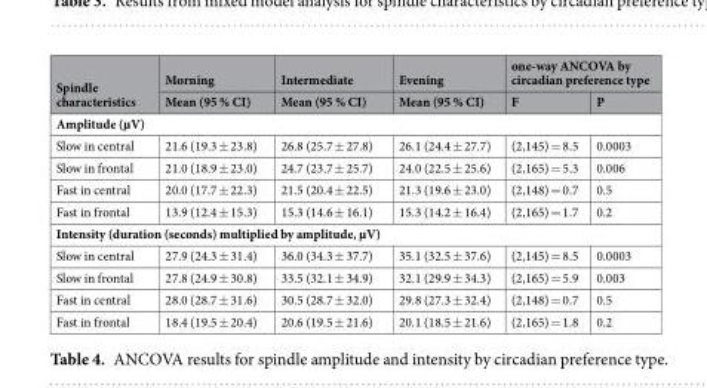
<table><thead><tr><td rowspan="2">Spindle characteristics</td><td rowspan="2">Morning Mean (95 % CI)</td><td rowspan="2">Intermediate Mean (95 % CI)</td><td rowspan="2">Evening Mean (95 % CI)</td><td colspan="2">one-way ANCOVA by circadian preference type</td></tr><tr><td>F</td><td>P</td></tr></thead><tbody><tr><td colspan="6">Amplitude (µV)</td></tr><tr><td>Slow in central</td><td>21.6 (19.3 ± 23.8)</td><td>26.8 (25.7 ± 27.8)</td><td>26.1 (24.4 ± 27.7)</td><td>(2,145) = 8.5</td><td>0.0003</td></tr><tr><td>Slow in frontal</td><td>21.0 (18.9 ± 23.0)</td><td>24.7 (23.7 ± 25.7)</td><td>24.0 (22.5 ± 25.6)</td><td>(2,165) = 5.3</td><td>0.006</td></tr><tr><td>Fast in central</td><td>20.0 (17.7 ± 22.3)</td><td>21.5 (20.4 ± 22.5)</td><td>21.3 (19.6 ± 23.0)</td><td>(2,148) = 0.7</td><td>0.5</td></tr><tr><td>Fast in frontal</td><td>13.9 (12.4 ± 15.3)</td><td>15.3 (14.6 ± 16.1)</td><td>15.3 (14.2 ± 16.4)</td><td>(2,165) = 1.7</td><td>0.2</td></tr><tr><td colspan="6">Intensity (duration (seconds) multiplied by amplitude, µV)</td></tr><tr><td>Slow in central</td><td>27.9 (24.3 ± 31.4)</td><td>36.0 (34.3 ± 37.7)</td><td>35.1 (32.5 ± 37.6)</td><td>(2,145) = 8.5</td><td>0.0003</td></tr><tr><td>Slow in frontal</td><td>27.8 (24.9 ± 30.8)</td><td>33.5 (32.1 ± 34.9)</td><td>32.1 (29.9 ± 34.3)</td><td>(2,165) = 5.9</td><td>0.003</td></tr><tr><td>Fast in central</td><td>28.0 (28.7 ± 31.6)</td><td>30.5 (28.7 ± 32.0)</td><td>29.8 (27.3 ± 32.4)</td><td>(2,148) = 0.7</td><td>0.5</td></tr><tr><td>Fast in frontal</td><td>18.4 (19.5 ± 20.4)</td><td>20.6 (19.5 ± 21.6)</td><td>20.1 (18.5 ± 21.6)</td><td>(2,165) = 1.8</td><td>0.2</td></tr></tbody></table>